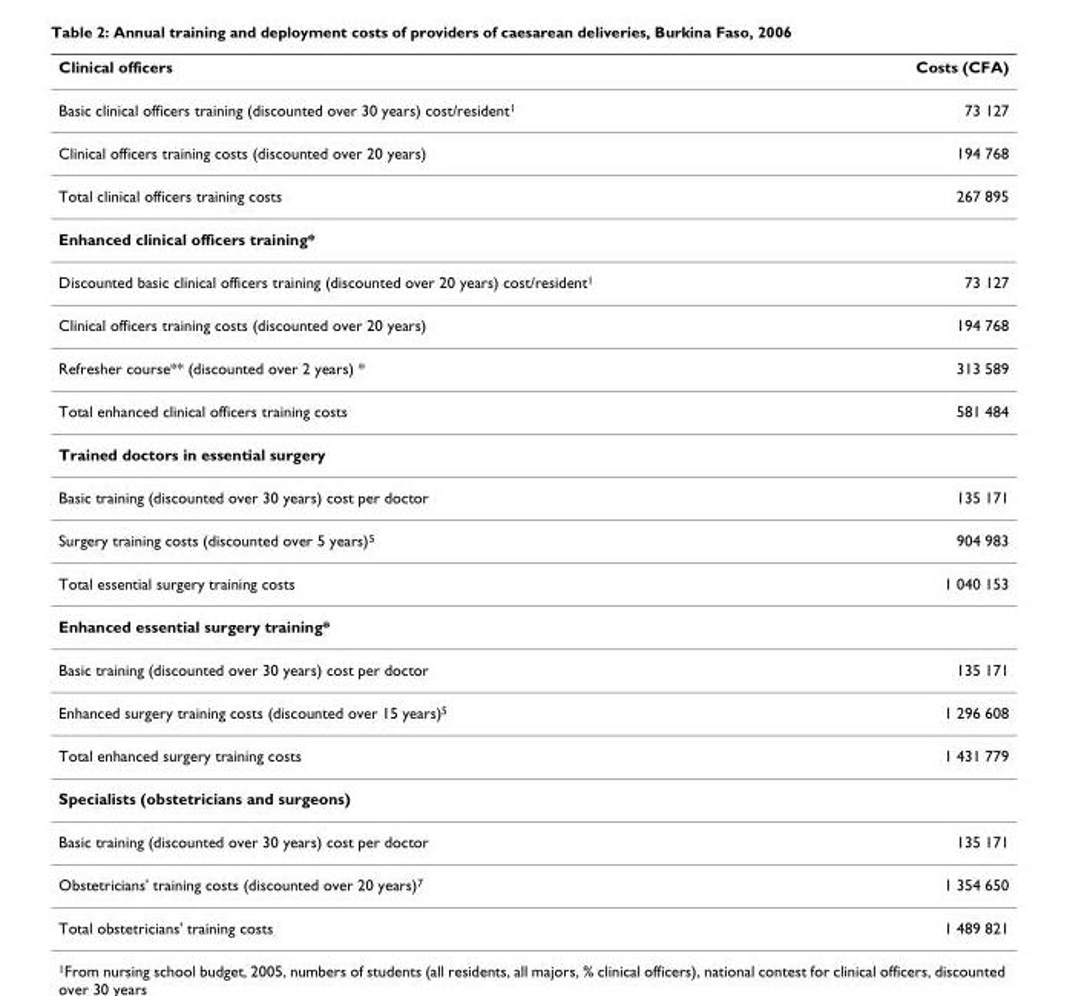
<table><thead><tr><td>Clinical officers</td><td>Costs (CFA)</td></tr></thead><tbody><tr><td>Basic clinical officers training (discounted over 30 years) cost/resident<sup>1</sup></td><td>73 127</td></tr><tr><td>Clinical officers training costs (discounted over 20 years)</td><td>194 768</td></tr><tr><td>Total clinical officers training costs</td><td>267 895</td></tr><tr><td colspan="2">Enhanced clinical officers training*</td></tr><tr><td>Discounted basic clinical officers training (discounted over 20 years) cost/resident<sup>1</sup></td><td>73 127</td></tr><tr><td>Clinical officers training costs (discounted over 20 years)</td><td>194 768</td></tr><tr><td>Refresher course** (discounted over 2 years) *</td><td>313 589</td></tr><tr><td>Total enhanced clinical officers training costs</td><td>581 484</td></tr><tr><td colspan="2">Trained doctors in essential surgery</td></tr><tr><td>Basic training (discounted over 30 years) cost per doctor</td><td>135 171</td></tr><tr><td>Surgery training costs (discounted over 5 years)<sup>5</sup></td><td>904 983</td></tr><tr><td>Total essential surgery training costs</td><td>1 040 153</td></tr><tr><td colspan="2">Enhanced essential surgery training*</td></tr><tr><td>Basic training (discounted over 30 years) cost per doctor</td><td>135 171</td></tr><tr><td>Enhanced surgery training costs (discounted over 15 years)<sup>5</sup></td><td>1 296 608</td></tr><tr><td>Total enhanced surgery training costs</td><td>1 431 779</td></tr><tr><td colspan="2">Specialists (obstetricians and surgeons)</td></tr><tr><td>Basic training (discounted over 30 years) cost per doctor</td><td>135 171</td></tr><tr><td>Obstetricians&#x27; training costs (discounted over 20 years)<sup>7</sup></td><td>1 354 650</td></tr><tr><td>Total obstetricians&#x27; training costs</td><td>1 489 821</td></tr></tbody></table>